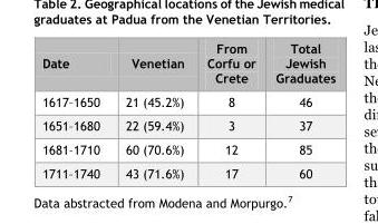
<table><thead><tr><td>Date</td><td>Venetian</td><td>From Corfu or Crete</td><td>Total Jewish Graduates</td></tr></thead><tbody><tr><td>1617–1650</td><td>21 (45.2%)</td><td>8</td><td>46</td></tr><tr><td>1651–1680</td><td>22 (59.4%)</td><td>3</td><td>37</td></tr><tr><td>1681–1710</td><td>60 (70.6%)</td><td>12</td><td>85</td></tr><tr><td>1711–1740</td><td>43 (71.6%)</td><td>17</td><td>60</td></tr></tbody></table>